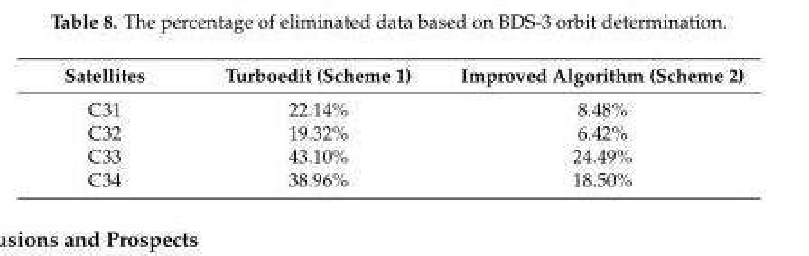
<table><thead><tr><td>Satellites</td><td>Turboedit (Scheme 1)</td><td>Improved Algorithm (Scheme 2)</td></tr></thead><tbody><tr><td>C31</td><td>22.14%</td><td>8.48%</td></tr><tr><td>C32</td><td>19.32%</td><td>6.42%</td></tr><tr><td>C33</td><td>43.10%</td><td>24.49%</td></tr><tr><td>C34</td><td>38.96%</td><td>18.50%</td></tr></tbody></table>